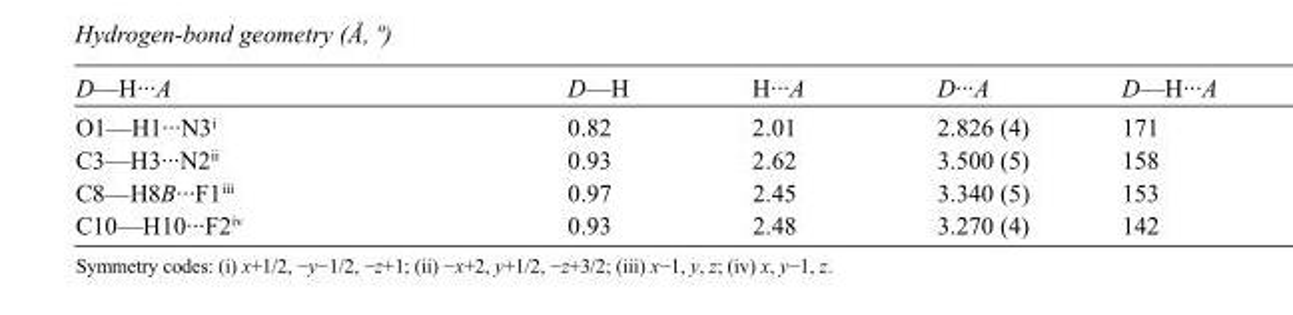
<table><tbody><tr><td>D—H···A</td><td>D—H</td><td>H···A</td><td>D···A</td><td>D—H···A</td></tr><tr><td>O1—H1···N3<sup>i</sup></td><td>0.82</td><td>2.01</td><td>2.826 (4)</td><td>171</td></tr><tr><td>C3—H3···N2<sup>ii</sup></td><td>0.93</td><td>2.62</td><td>3.500 (5)</td><td>158</td></tr><tr><td>C8—H8B···F1<sup>iii</sup></td><td>0.97</td><td>2.45</td><td>3.340 (5)</td><td>153</td></tr><tr><td>C10—H10···F2<sup>iv</sup></td><td>0.93</td><td>2.48</td><td>3.270 (4)</td><td>142</td></tr></tbody></table>